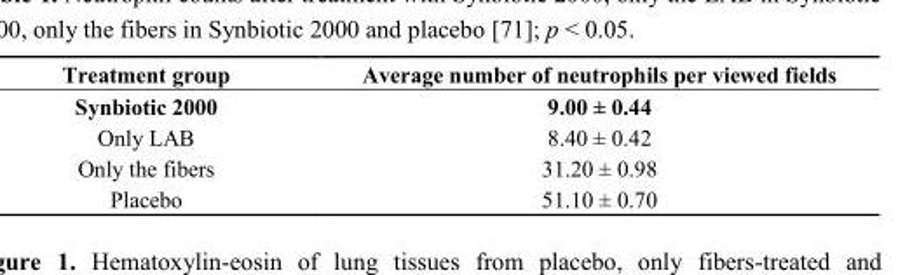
<table><thead><tr><td>Treatment group</td><td>Average number of neutrophils per viewed fields</td></tr></thead><tbody><tr><td>Synbiotic 2000</td><td>9.00 ± 0.44</td></tr><tr><td>Only LAB</td><td>8.40 ± 0.42</td></tr><tr><td>Only the fibers</td><td>31.20 ± 0.98</td></tr><tr><td>Placebo</td><td>51.10 ± 0.70</td></tr></tbody></table>